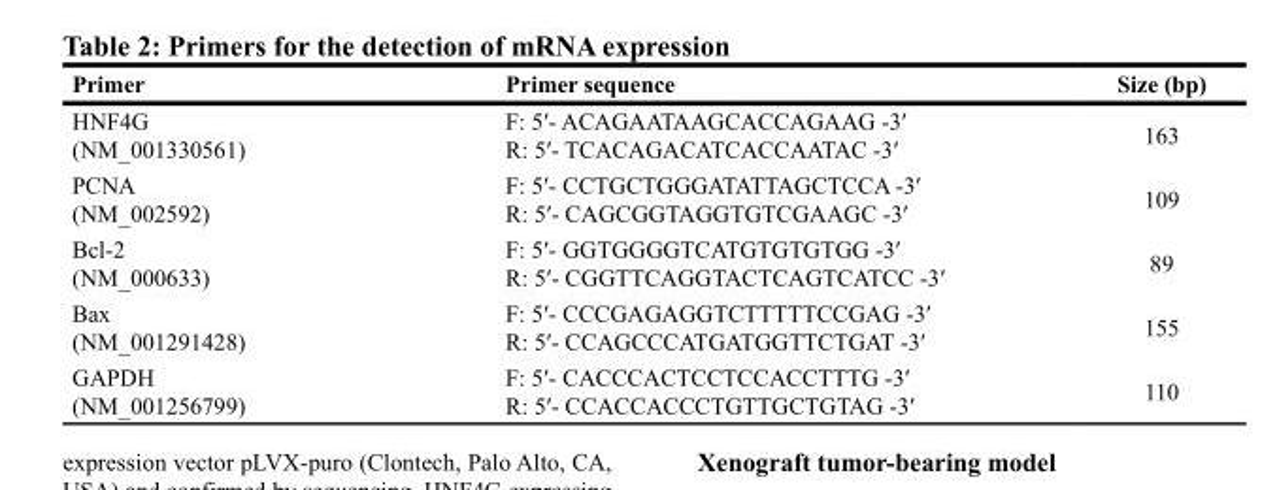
<table><thead><tr><td>Primer</td><td>Primer sequence</td><td>Size (bp)</td></tr></thead><tbody><tr><td>HNF4G (NM_001330561)</td><td>F: 5′- ACAGAATAAGCACCAGAAG -3′ R: 5′- TCACAGACATCACCAATAC -3′</td><td>163</td></tr><tr><td>PCNA (NM_002592)</td><td>F: 5′- CCTGCTGGGATATTAGCTCCA -3′ R: 5′- CAGCGGTAGGTGTCGAAGC -3′</td><td>109</td></tr><tr><td>Bcl-2 (NM_000633)</td><td>F: 5′- GGTGGGGTCATGTGTGTGG -3′ R: 5′- CGGTTCAGGTACTCAGTCATCC -3′</td><td>89</td></tr><tr><td>Bax (NM_001291428)</td><td>F: 5′- CCCGAGAGGTCTTTTTCCGAG -3′ R: 5′- CCAGCCCATGATGGTTCTGAT -3′</td><td>155</td></tr><tr><td>GAPDH (NM_001256799)</td><td>F: 5′- CACCCACTCCTCCACCTTTG -3′ R: 5′- CCACCACCCTGTTGCTGTAG -3′</td><td>110</td></tr></tbody></table>